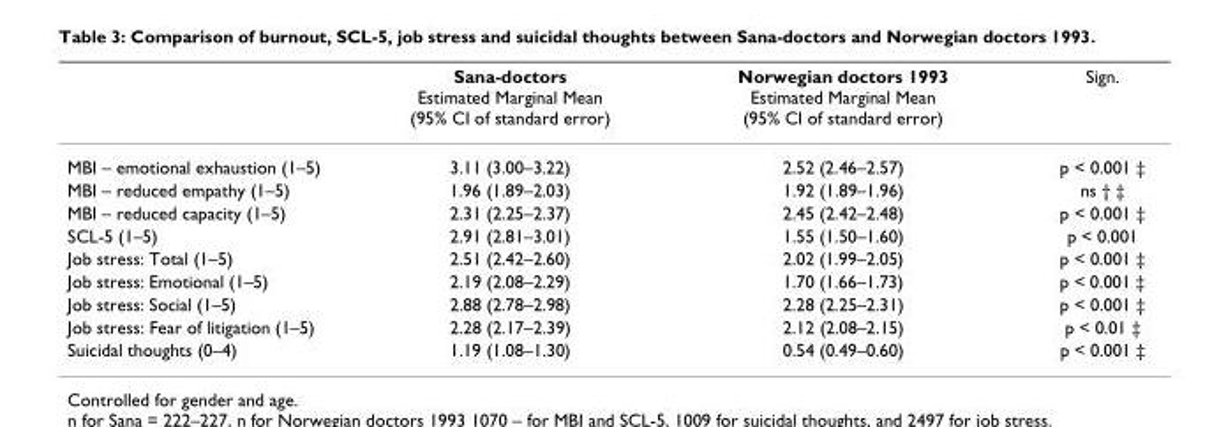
<table><thead><tr><td></td><td>Sana-doctors Estimated Marginal Mean (95% CI of standard error)</td><td>Norwegian doctors 1993 Estimated Marginal Mean (95% CI of standard error)</td><td>Sign.</td></tr></thead><tbody><tr><td>MBI – emotional exhaustion (1–5)</td><td>3.11 (3.00–3.22)</td><td>2.52 (2.46–2.57)</td><td>p &lt; 0.001 ‡</td></tr><tr><td>MBI – reduced empathy (1–5)</td><td>1.96 (1.89–2.03)</td><td>1.92 (1.89–1.96)</td><td>ns † ‡</td></tr><tr><td>MBI – reduced capacity (1–5)</td><td>2.31 (2.25–2.37)</td><td>2.45 (2.42–2.48)</td><td>p &lt; 0.001 ‡</td></tr><tr><td>SCL-5 (1–5)</td><td>2.91 (2.81–3.01)</td><td>1.55 (1.50–1.60)</td><td>p &lt; 0.001</td></tr><tr><td>Job stress: Total (1–5)</td><td>2.51 (2.42–2.60)</td><td>2.02 (1.99–2.05)</td><td>p &lt; 0.001 ‡</td></tr><tr><td>Job stress: Emotional (1–5)</td><td>2.19 (2.08–2.29)</td><td>1.70 (1.66–1.73)</td><td>p &lt; 0.001 ‡</td></tr><tr><td>Job stress: Social (1–5)</td><td>2.88 (2.78–2.98)</td><td>2.28 (2.25–2.31)</td><td>p &lt; 0.001 ‡</td></tr><tr><td>Job stress: Fear of litigation (1–5)</td><td>2.28 (2.17–2.39)</td><td>2.12 (2.08–2.15)</td><td>p &lt; 0.01 ‡</td></tr><tr><td>Suicidal thoughts (0–4)</td><td>1.19 (1.08–1.30)</td><td>0.54 (0.49–0.60)</td><td>p &lt; 0.001 ‡</td></tr></tbody></table>